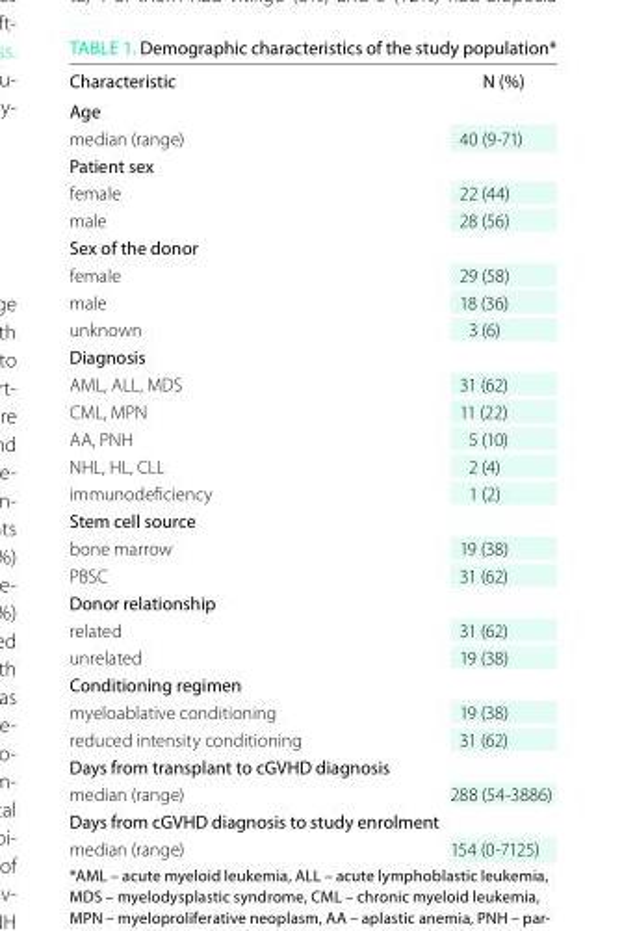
<table><thead><tr><td>Characteristic</td><td>N (%)</td></tr></thead><tbody><tr><td colspan="2">age</td></tr><tr><td>median (range)</td><td>40 (9-71)</td></tr><tr><td colspan="2">Patient sex</td></tr><tr><td>female</td><td>22 (44)</td></tr><tr><td>male</td><td>28 (56)</td></tr><tr><td colspan="2">Sex of the donor</td></tr><tr><td>female</td><td>29 (58)</td></tr><tr><td>male</td><td>18 (36)</td></tr><tr><td>unknown</td><td>3 (6)</td></tr><tr><td colspan="2">Diagnosis</td></tr><tr><td>AML, ALL, MDS</td><td>31 (62)</td></tr><tr><td>CML, MPN</td><td>11 (22)</td></tr><tr><td>AA, PNH</td><td>5 (10)</td></tr><tr><td>NHL, HL, CLL</td><td>2 (4)</td></tr><tr><td>immunodeficiency</td><td>1 (2)</td></tr><tr><td colspan="2">Stem cell source</td></tr><tr><td>bone marrow</td><td>19 (38)</td></tr><tr><td>PBSC</td><td>31 (62)</td></tr><tr><td colspan="2">Donor relationship</td></tr><tr><td>related</td><td>31 (62)</td></tr><tr><td>unrelated</td><td>19 (38)</td></tr><tr><td colspan="2">Conditioning regimen</td></tr><tr><td>myeloablative conditioning</td><td>19 (38)</td></tr><tr><td>reduced intensity conditioning</td><td>31 (62)</td></tr><tr><td colspan="2">Days from transplant to cGVhD diagnosis</td></tr><tr><td>median (range)</td><td>288 (54-3886)</td></tr><tr><td colspan="2">Days from cGVhD diagnosis to study enrolment</td></tr><tr><td>median (range)</td><td>154 (0-7125)</td></tr></tbody></table>